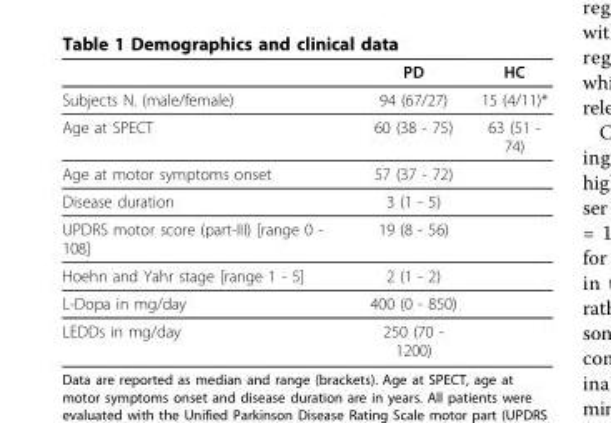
<table><thead><tr><td></td><td>PD</td><td>HC</td></tr></thead><tbody><tr><td>Subjects N. (male/female)</td><td>94 (67/27)</td><td>15 (4/11)*</td></tr><tr><td>Age at SPECT</td><td>60 (38 - 75)</td><td>63 (51 - 74)</td></tr><tr><td>Age at motor symptoms onset</td><td>57 (37 - 72)</td><td></td></tr><tr><td>Disease duration</td><td>3 (1 - 5)</td><td></td></tr><tr><td>UPDRS motor score (part-III) [range 0 - 108]</td><td>19 (8 - 56)</td><td></td></tr><tr><td>Hoehn and Yahr stage [range 1 - 5]</td><td>2 (1 - 2)</td><td></td></tr><tr><td>L-Dopa in mg/day</td><td>400 (0 - 850)</td><td></td></tr><tr><td>LEDDs in mg/day</td><td>250 (70 - 1200)</td><td></td></tr></tbody></table>